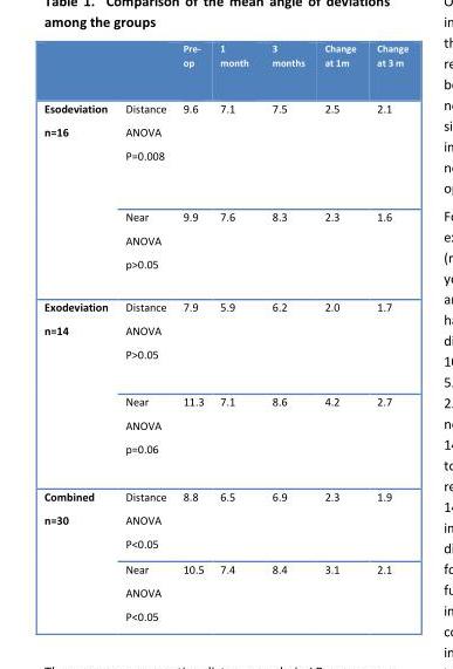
<table><thead><tr><td></td><td></td><td>Pre- op</td><td>1 month</td><td>3 months</td><td>Change at 1m</td><td>Change at 3 m</td></tr></thead><tbody><tr><td rowspan="2">Esodeviation n=16</td><td>Distance ANOVA P=0.008</td><td>9.6</td><td>7.1</td><td>7.5</td><td>2.5</td><td>2.1</td></tr><tr><td>Near ANOVA p&gt;0.05</td><td>9.9</td><td>7.6</td><td>8.3</td><td>2.3</td><td>1.6</td></tr><tr><td rowspan="2">Exodeviation n=14</td><td>Distance ANOVA P&gt;0.05</td><td>7.9</td><td>5.9</td><td>6.2</td><td>2.0</td><td>1.7</td></tr><tr><td>Near ANOVA p=0.06</td><td>11.3</td><td>7.1</td><td>8.6</td><td>4.2</td><td>2.7</td></tr><tr><td rowspan="2">Combined n=30</td><td>Distance ANOVA P&lt;0.05</td><td>8.8</td><td>6.5</td><td>6.9</td><td>2.3</td><td>1.9</td></tr><tr><td>Near ANOVA P&lt;0.05</td><td>10.5</td><td>7.4</td><td>8.4</td><td>3.1</td><td>2.1</td></tr></tbody></table>